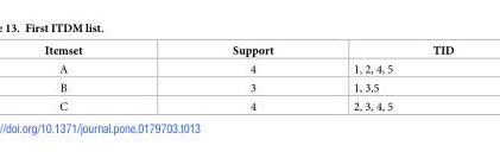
<table><thead><tr><td>Itemset</td><td>Support</td><td>TID</td></tr></thead><tbody><tr><td>A</td><td>4</td><td>1, 2, 4, 5</td></tr><tr><td>B</td><td>3</td><td>1, 3,5</td></tr><tr><td>C</td><td>4</td><td>2, 3, 4, 5</td></tr></tbody></table>